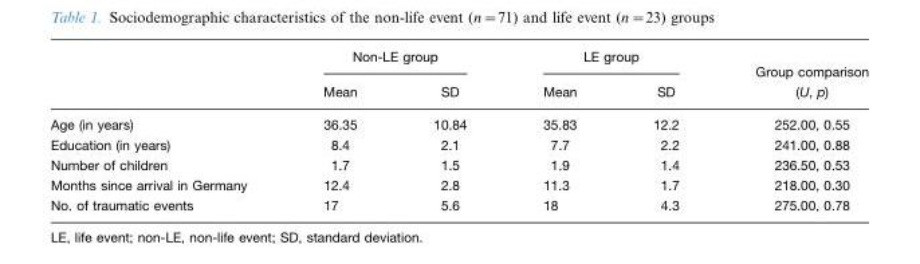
<table><thead><tr><td rowspan="2"></td><td colspan="2">Non-LE group</td><td colspan="2">LE group</td><td rowspan="2">Group comparison (U, p)</td></tr><tr><td>Mean</td><td>SD</td><td>Mean</td><td>SD</td></tr></thead><tbody><tr><td>Age (in years)</td><td>36.35</td><td>10.84</td><td>35.83</td><td>12.2</td><td>252.00, 0.55</td></tr><tr><td>Education (in years)</td><td>8.4</td><td>2.1</td><td>7.7</td><td>2.2</td><td>241.00, 0.88</td></tr><tr><td>Number of children</td><td>1.7</td><td>1.5</td><td>1.9</td><td>1.4</td><td>236.50, 0.53</td></tr><tr><td>Months since arrival in Germany</td><td>12.4</td><td>2.8</td><td>11.3</td><td>1.7</td><td>218.00, 0.30</td></tr><tr><td>No. of traumatic events</td><td>17</td><td>5.6</td><td>18</td><td>4.3</td><td>275.00, 0.78</td></tr></tbody></table>